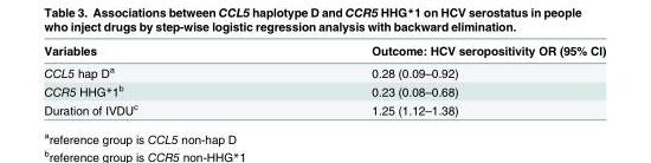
<table><thead><tr><td>Variables</td><td>Outcome: HCV seropositivity OR (95% CI)</td></tr></thead><tbody><tr><td>CCL5 hap D<sup>a</sup></td><td>0.28 (0.09–0.92)</td></tr><tr><td>CCR5 HHG*1<sup>b</sup></td><td>0.23 (0.08–0.68)</td></tr><tr><td>Duration of IVDU<sup>c</sup></td><td>1.25 (1.12–1.38)</td></tr></tbody></table>